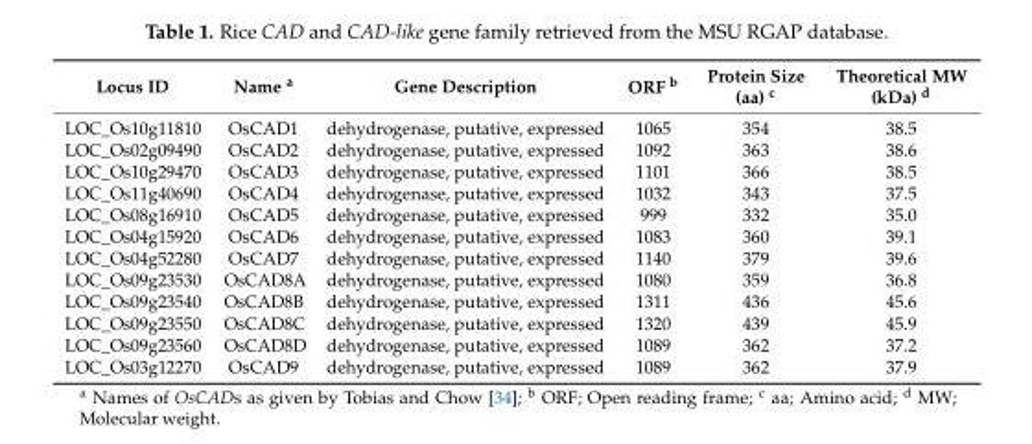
<table><thead><tr><td>Locus ID</td><td>Name <sup>a</sup></td><td>Gene Description</td><td>ORF <sup>b</sup></td><td>Protein Size (aa) <sup>c</sup></td><td>Theoretical MW (kDa) <sup>d</sup></td></tr></thead><tbody><tr><td>LOC_Os10g11810</td><td>OsCAD1</td><td>dehydrogenase, putative, expressed</td><td>1065</td><td>354</td><td>38.5</td></tr><tr><td>LOC_Os02g09490</td><td>OsCAD2</td><td>dehydrogenase, putative, expressed</td><td>1092</td><td>363</td><td>38.6</td></tr><tr><td>LOC_Os10g29470</td><td>OsCAD3</td><td>dehydrogenase, putative, expressed</td><td>1101</td><td>366</td><td>38.5</td></tr><tr><td>LOC_Os11g40690</td><td>OsCAD4</td><td>dehydrogenase, putative, expressed</td><td>1032</td><td>343</td><td>37.5</td></tr><tr><td>LOC_Os08g16910</td><td>OsCAD5</td><td>dehydrogenase, putative, expressed</td><td>999</td><td>332</td><td>35.0</td></tr><tr><td>LOC_Os04g15920</td><td>OsCAD6</td><td>dehydrogenase, putative, expressed</td><td>1083</td><td>360</td><td>39.1</td></tr><tr><td>LOC_Os04g52280</td><td>OsCAD7</td><td>dehydrogenase, putative, expressed</td><td>1140</td><td>379</td><td>39.6</td></tr><tr><td>LOC_Os09g23530</td><td>OsCAD8A</td><td>dehydrogenase, putative, expressed</td><td>1080</td><td>359</td><td>36.8</td></tr><tr><td>LOC_Os09g23540</td><td>OsCAD8B</td><td>dehydrogenase, putative, expressed</td><td>1311</td><td>436</td><td>45.6</td></tr><tr><td>LOC_Os09g23550</td><td>OsCAD8C</td><td>dehydrogenase, putative, expressed</td><td>1320</td><td>439</td><td>45.9</td></tr><tr><td>LOC_Os09g23560</td><td>OsCAD8D</td><td>dehydrogenase, putative, expressed</td><td>1089</td><td>362</td><td>37.2</td></tr><tr><td>LOC_Os03g12270</td><td>OsCAD9</td><td>dehydrogenase, putative, expressed</td><td>1089</td><td>362</td><td>37.9</td></tr></tbody></table>